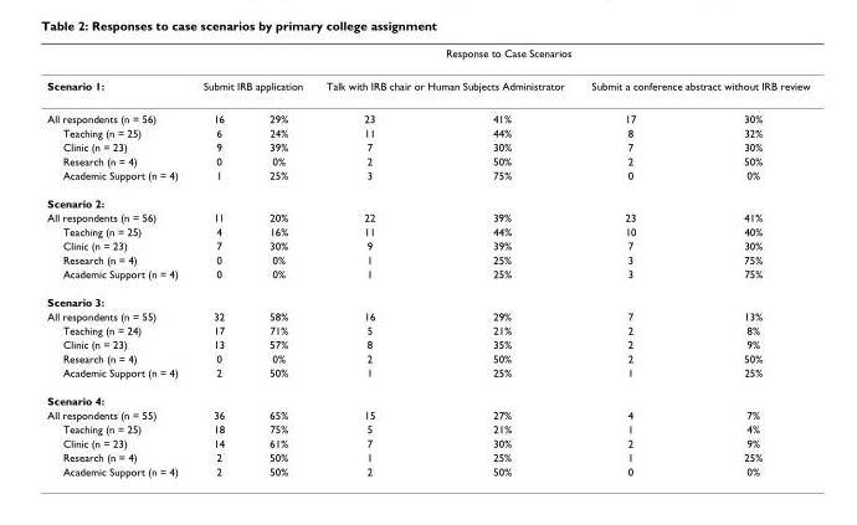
<table><thead><tr><td rowspan="3">Scenario 1: All respondents (n = 56)</td><td colspan="6">Response to Case Scenarios</td></tr><tr><td colspan="2">Submit IRB application</td><td colspan="2">Talk with IRB chair or Human Subjects Administrator</td><td colspan="2">Submit a conference abstract without IRB review</td></tr><tr><td>16</td><td>29%</td><td>23</td><td>41%</td><td>17</td><td>30%</td></tr></thead><tbody><tr><td>Teaching (n = 25)</td><td>6</td><td>24%</td><td>11</td><td>44%</td><td>8</td><td>32%</td></tr><tr><td>Clinic (n = 23)</td><td>9</td><td>39%</td><td>7</td><td>30%</td><td>7</td><td>30%</td></tr><tr><td>Research (n = 4)</td><td>0</td><td>0%</td><td>2</td><td>50%</td><td>2</td><td>50%</td></tr><tr><td>Academic Support (n = 4)</td><td>1</td><td>25%</td><td>3</td><td>75%</td><td>0</td><td>0%</td></tr><tr><td colspan="7">Scenario 2:</td></tr><tr><td>All respondents (n = 56)</td><td>11</td><td>20%</td><td>22</td><td>39%</td><td>23</td><td>41%</td></tr><tr><td>Teaching (n = 25)</td><td>4</td><td>16%</td><td>11</td><td>44%</td><td>10</td><td>40%</td></tr><tr><td>Clinic (n = 23)</td><td>7</td><td>30%</td><td>9</td><td>39%</td><td>7</td><td>30%</td></tr><tr><td>Research (n = 4)</td><td>0</td><td>0%</td><td>1</td><td>25%</td><td>3</td><td>75%</td></tr><tr><td>Academic Support (n = 4)</td><td>0</td><td>0%</td><td>1</td><td>25%</td><td>3</td><td>75%</td></tr><tr><td colspan="7">Scenario 3:</td></tr><tr><td>All respondents (n = 55)</td><td>32</td><td>58%</td><td>16</td><td>29%</td><td>7</td><td>13%</td></tr><tr><td>Teaching (n = 24)</td><td>17</td><td>71%</td><td>5</td><td>21%</td><td>2</td><td>8%</td></tr><tr><td>Clinic (n = 23)</td><td>13</td><td>57%</td><td>8</td><td>35%</td><td>2</td><td>9%</td></tr><tr><td>Research (n = 4)</td><td>0</td><td>0%</td><td>2</td><td>50%</td><td>2</td><td>50%</td></tr><tr><td>Academic Support (n = 4)</td><td>2</td><td>50%</td><td>1</td><td>25%</td><td>1</td><td>25%</td></tr><tr><td colspan="7">Scenario 4:</td></tr><tr><td>All respondents (n = 55)</td><td>36</td><td>65%</td><td>15</td><td>27%</td><td>4</td><td>7%</td></tr><tr><td>Teaching (n = 25)</td><td>18</td><td>75%</td><td>5</td><td>21%</td><td>1</td><td>4%</td></tr><tr><td>Clinic (n = 23)</td><td>14</td><td>61%</td><td>7</td><td>30%</td><td>2</td><td>9%</td></tr><tr><td>Research (n = 4)</td><td>2</td><td>50%</td><td>1</td><td>25%</td><td>1</td><td>25%</td></tr><tr><td>Academic Support (n = 4)</td><td>2</td><td>50%</td><td>2</td><td>50%</td><td>0</td><td>0%</td></tr></tbody></table>